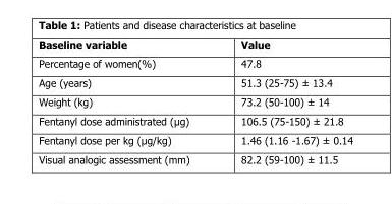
<table><thead><tr><td>Baseline variable</td><td>Value</td></tr></thead><tbody><tr><td>Percentage of women(%)</td><td>47.8</td></tr><tr><td>Age (years)</td><td>51.3 (25-75) ± 13.4</td></tr><tr><td>Weight (kg)</td><td>73.2 (50-100) ± 14</td></tr><tr><td>Fentanyl dose administrated (µg)</td><td>106.5 (75-150) ± 21.8</td></tr><tr><td>Fentanyl dose per kg (µg/kg)</td><td>1.46 (1.16 -1.67) ± 0.14</td></tr><tr><td>Visual analogic assessment (mm)</td><td>82.2 (59-100) ± 11.5</td></tr></tbody></table>